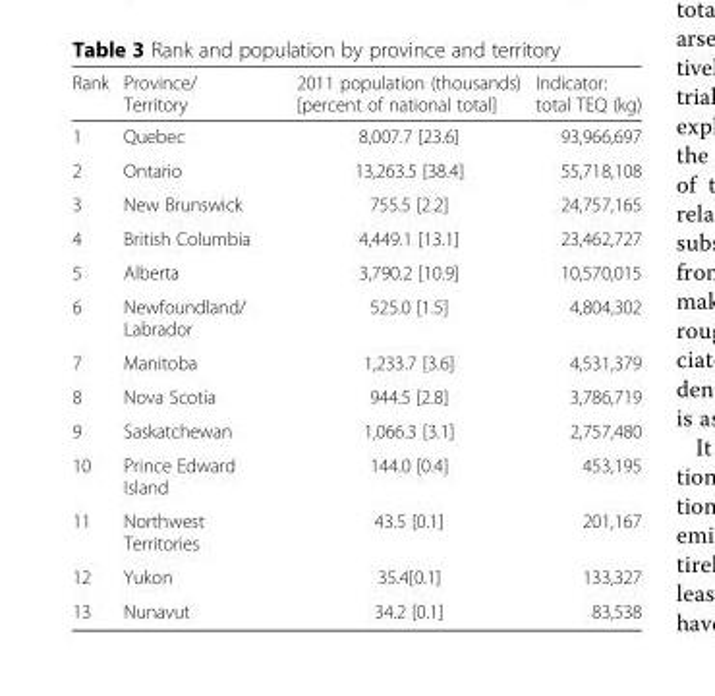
<table><thead><tr><td>Rank</td><td>Province/ Territory</td><td>2011 population (thousands) [percent of national total]</td><td>Indicator: total TEQ (kg)</td></tr></thead><tbody><tr><td>1</td><td>Quebec</td><td>8,007.7 [23.6]</td><td>93,966,697</td></tr><tr><td>2</td><td>Ontario</td><td>13,263.5 [38.4]</td><td>55,718,108</td></tr><tr><td>3</td><td>New Brunswick</td><td>755.5 [2.2]</td><td>24,757,165</td></tr><tr><td>4</td><td>British Columbia</td><td>4,449.1 [13.1]</td><td>23,462,727</td></tr><tr><td>5</td><td>Alberta</td><td>3,790.2 [10.9]</td><td>10,570,015</td></tr><tr><td>6</td><td>Newfoundland/ Labrador</td><td>525.0 [1.5]</td><td>4,804,302</td></tr><tr><td>7</td><td>Manitoba</td><td>1,233.7 [3.6]</td><td>4,531,379</td></tr><tr><td>8</td><td>Nova Scotia</td><td>944.5 [2.8]</td><td>3,786,719</td></tr><tr><td>9</td><td>Saskatchewan</td><td>1,066.3 [3.1]</td><td>2,757,480</td></tr><tr><td>10</td><td>Prince Edward Island</td><td>144.0 [0.4]</td><td>453,195</td></tr><tr><td>11</td><td>Northwest Territories</td><td>43.5 [0.1]</td><td>201,167</td></tr><tr><td>12</td><td>Yukon</td><td>35.4[0.1]</td><td>133,327</td></tr><tr><td>13</td><td>Nunavut</td><td>34.2 [0.1]</td><td>83,538</td></tr></tbody></table>